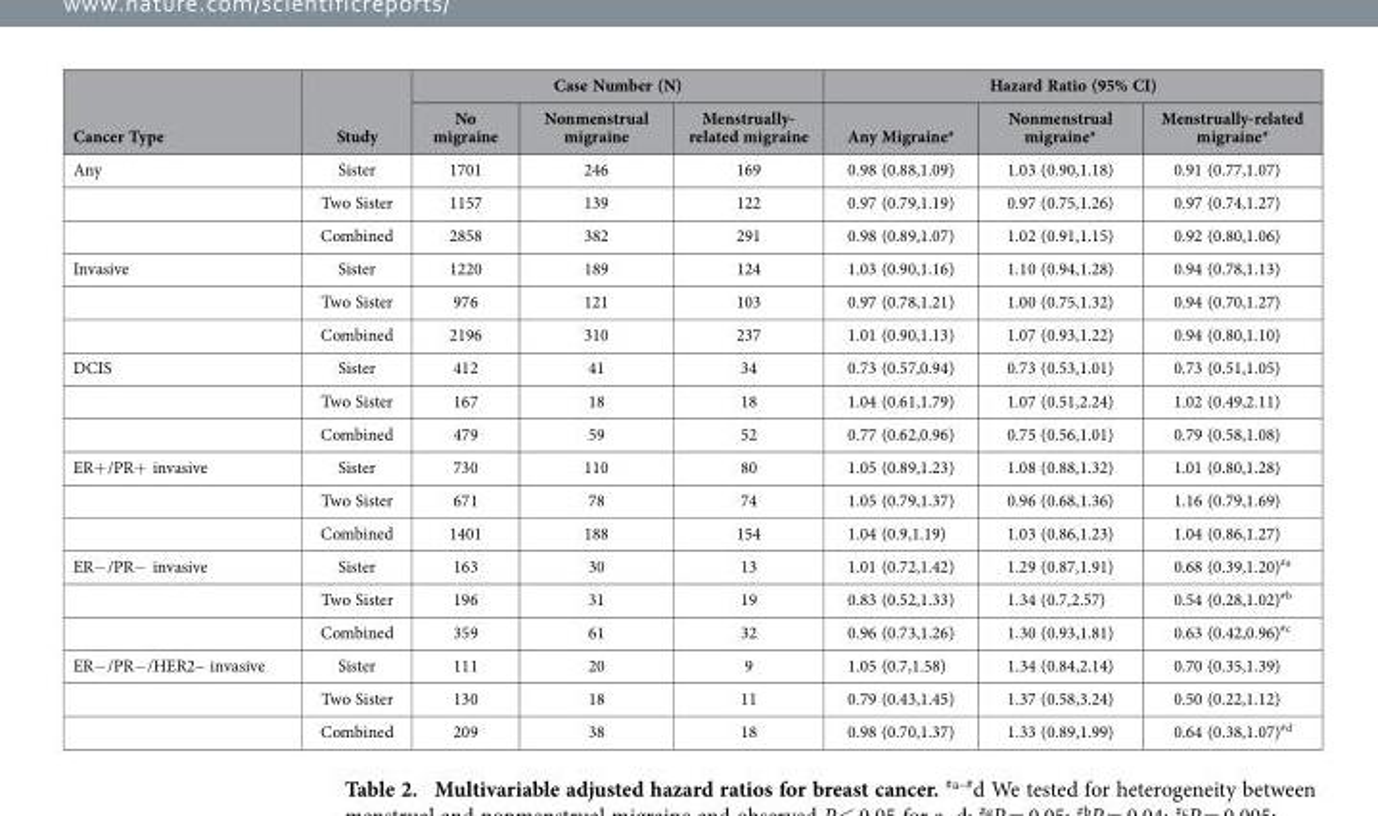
<table><thead><tr><td rowspan="2">Cancer Type</td><td rowspan="2">Study</td><td colspan="3">Case Number (N)</td><td colspan="3">Hazard Ratio (95% CI)</td></tr><tr><td>No migraine</td><td>Nonmenstrual migraine</td><td>Menstrually- related migraine</td><td>Any Migraine*</td><td>Nonmenstrual migraine*</td><td>Menstrually-related migraine*</td></tr></thead><tbody><tr><td rowspan="3">Any</td><td>Sister</td><td>1701</td><td>246</td><td>169</td><td>0.98 (0.88,1.09)</td><td>1.03 (0.90,1.18)</td><td>0.91 (0.77,1.07)</td></tr><tr><td>Two Sister</td><td>1157</td><td>139</td><td>122</td><td>0.97 (0.79,1.19)</td><td>0.97 (0.75,1.26)</td><td>0.97 (0.74,1.27)</td></tr><tr><td>Combined</td><td>2858</td><td>382</td><td>291</td><td>0.98 (0.89,1.07)</td><td>1.02 (0.91,1.15)</td><td>0.92 (0.80,1.06)</td></tr><tr><td rowspan="3">Invasive</td><td>Sister</td><td>1220</td><td>189</td><td>124</td><td>1.03 (0.90,1.16)</td><td>1.10 (0.94,1.28)</td><td>0.94 (0.78,1.13)</td></tr><tr><td>Two Sister</td><td>976</td><td>121</td><td>103</td><td>0.97 (0.78,1.21)</td><td>1.00 (0.75,1.32)</td><td>0.94 (0.70,1.27)</td></tr><tr><td>Combined</td><td>2196</td><td>310</td><td>237</td><td>1.01 (0.90,1.13)</td><td>1.07 (0.93,1.22)</td><td>0.94 (0.80,1.10)</td></tr><tr><td rowspan="3">DCIS</td><td>Sister</td><td>412</td><td>41</td><td>34</td><td>0.73 (0.57,0.94)</td><td>0.73 (0.53,1.01)</td><td>0.73 (0.51,1.05)</td></tr><tr><td>Two Sister</td><td>167</td><td>18</td><td>18</td><td>1.04 (0.61,1.79)</td><td>1.07 (0.51,2.24)</td><td>1.02 (0.49,2.11)</td></tr><tr><td>Combined</td><td>479</td><td>59</td><td>52</td><td>0.77 (0.62,0.96)</td><td>0.75 (0.56,1.01)</td><td>0.79 (0.58,1.08)</td></tr><tr><td rowspan="3">ER+ /PR+ invasive</td><td>Sister</td><td>730</td><td>110</td><td>80</td><td>1.05 (0.89,1.23)</td><td>1.08 (0.88,1.32)</td><td>1.01 (0.80,1.28)</td></tr><tr><td>Two Sister</td><td>671</td><td>78</td><td>74</td><td>1.05 (0.79,1.37)</td><td>0.96 (0.68,1.36)</td><td>1.16 (0.79,1.69)</td></tr><tr><td>Combined</td><td>1401</td><td>188</td><td>154</td><td>1.04 (0.9,1.19)</td><td>1.03 (0.86,1.23)</td><td>1.04 (0.86,1.27)</td></tr><tr><td rowspan="3">ER− /PR− invasive</td><td>Sister</td><td>163</td><td>30</td><td>13</td><td>1.01 (0.72,1.42)</td><td>1.29 (0.87,1.91)</td><td>0.68 (0.39,1.20)<sup>#a</sup></td></tr><tr><td>Two Sister</td><td>196</td><td>31</td><td>19</td><td>0.83 (0.52,1.33)</td><td>1.34 (0.7,2.57)</td><td>0.54 (0.28,1.02)<sup>#b</sup></td></tr><tr><td>Combined</td><td>359</td><td>61</td><td>32</td><td>0.96 (0.73,1.26)</td><td>1.30 (0.93,1.81)</td><td>0.63 (0.42,0.96)<sup>#c</sup></td></tr><tr><td rowspan="3">ER− /PR− /HER2− invasive</td><td>Sister</td><td>111</td><td>20</td><td>9</td><td>1.05 (0.7,1.58)</td><td>1.34 (0.84,2.14)</td><td>0.70 (0.35,1.39)</td></tr><tr><td>Two Sister</td><td>130</td><td>18</td><td>11</td><td>0.79 (0.43,1.45)</td><td>1.37 (0.58,3.24)</td><td>0.50 (0.22,1.12)</td></tr><tr><td>Combined</td><td>209</td><td>38</td><td>18</td><td>0.98 (0.70,1.37)</td><td>1.33 (0.89,1.99)</td><td>0.64 (0.38,1.07)<sup>#d</sup></td></tr></tbody></table>